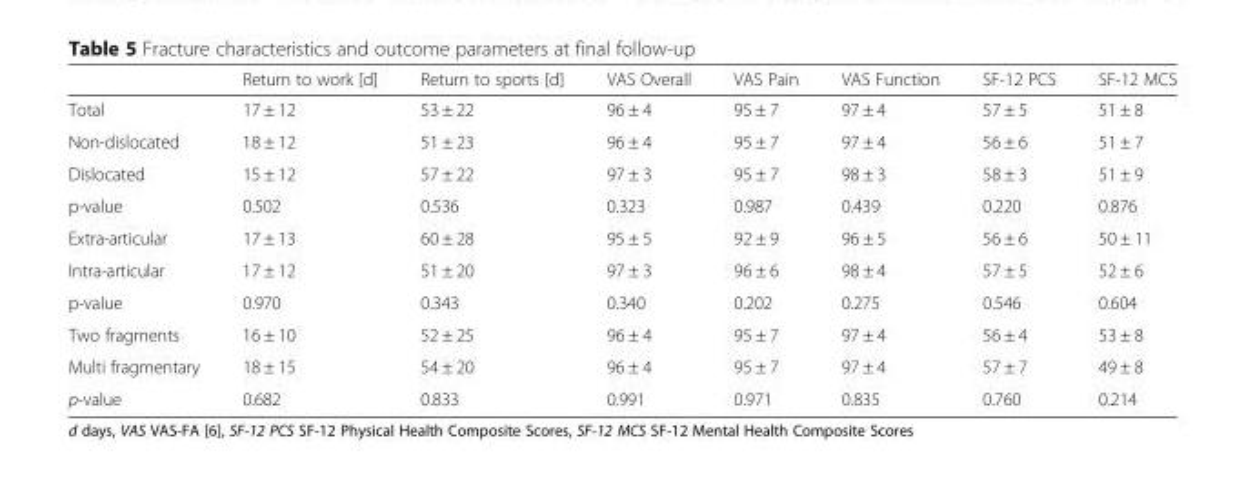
<table><thead><tr><td></td><td>Return to work [d]</td><td>Return to sports [d]</td><td>VAS Overall</td><td>VAS Pain</td><td>VAS Function</td><td>SF-12 PCS</td><td>SF-12 MCS</td></tr></thead><tbody><tr><td>Total</td><td>17 ± 12</td><td>53 ± 22</td><td>96 ± 4</td><td>95 ± 7</td><td>97 ± 4</td><td>57 ± 5</td><td>51 ± 8</td></tr><tr><td>Non-dislocated</td><td>18 ± 12</td><td>51 ± 23</td><td>96 ± 4</td><td>95 ± 7</td><td>97 ± 4</td><td>56 ± 6</td><td>51 ± 7</td></tr><tr><td>Dislocated</td><td>15 ± 12</td><td>57 ± 22</td><td>97 ± 3</td><td>95 ± 7</td><td>98 ± 3</td><td>58 ± 3</td><td>51 ± 9</td></tr><tr><td>p-value</td><td>0.502</td><td>0.536</td><td>0.323</td><td>0.987</td><td>0.439</td><td>0.220</td><td>0.876</td></tr><tr><td>Extra-articular</td><td>17 ± 13</td><td>60 ± 28</td><td>95 ± 5</td><td>92 ± 9</td><td>96 ± 5</td><td>56 ± 6</td><td>50 ± 11</td></tr><tr><td>Intra-articular</td><td>17 ± 12</td><td>51 ± 20</td><td>97 ± 3</td><td>96 ± 6</td><td>98 ± 4</td><td>57 ± 5</td><td>52 ± 6</td></tr><tr><td>p-value</td><td>0.970</td><td>0.343</td><td>0.340</td><td>0.202</td><td>0.275</td><td>0.546</td><td>0.604</td></tr><tr><td>Two fragments</td><td>16 ± 10</td><td>52 ± 25</td><td>96 ± 4</td><td>95 ± 7</td><td>97 ± 4</td><td>56 ± 4</td><td>53 ± 8</td></tr><tr><td>Multi fragmentary</td><td>18 ± 15</td><td>54 ± 20</td><td>96 ± 4</td><td>95 ± 7</td><td>97 ± 4</td><td>57 ± 7</td><td>49 ± 8</td></tr><tr><td>p-value</td><td>0.682</td><td>0.833</td><td>0.991</td><td>0.971</td><td>0.835</td><td>0.760</td><td>0.214</td></tr></tbody></table>